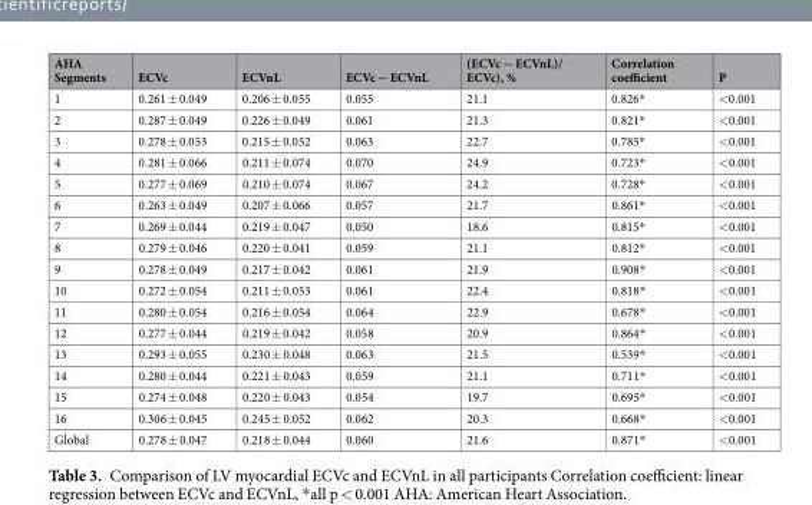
<table><thead><tr><td>AHA Segments</td><td>ECVc</td><td>ECVnL</td><td>ECVc − ECVnL</td><td>(ECVc − ECVnL)/ ECVc), %</td><td>Correlation coefficient</td><td>P</td></tr></thead><tbody><tr><td>1</td><td>0.261 ± 0.049</td><td>0.206 ± 0.055</td><td>0.055</td><td>21.1</td><td>0.826*</td><td>&lt;0.001</td></tr><tr><td>2</td><td>0.287 ± 0.049</td><td>0.226 ± 0.049</td><td>0.061</td><td>21.3</td><td>0.821*</td><td>&lt;0.001</td></tr><tr><td>3</td><td>0.278 ± 0.053</td><td>0.215 ± 0.052</td><td>0.063</td><td>22.7</td><td>0.785*</td><td>&lt;0.001</td></tr><tr><td>4</td><td>0.281 ± 0.066</td><td>0.211 ± 0.074</td><td>0.070</td><td>24.9</td><td>0.723*</td><td>&lt;0.001</td></tr><tr><td>5</td><td>0.277 ± 0.069</td><td>0.210 ± 0.074</td><td>0.067</td><td>24.2</td><td>0.728*</td><td>&lt;0.001</td></tr><tr><td>6</td><td>0.263 ± 0.049</td><td>0.207 ± 0.066</td><td>0.057</td><td>21.7</td><td>0.861*</td><td>&lt;0.001</td></tr><tr><td>7</td><td>0.269 ± 0.044</td><td>0.219 ± 0.047</td><td>0.050</td><td>18.6</td><td>0.815*</td><td>&lt;0.001</td></tr><tr><td>8</td><td>0.279 ± 0.046</td><td>0.220 ± 0.041</td><td>0.059</td><td>21.1</td><td>0.812*</td><td>&lt;0.001</td></tr><tr><td>9</td><td>0.278 ± 0.049</td><td>0.217 ± 0.042</td><td>0.061</td><td>21.9</td><td>0.908*</td><td>&lt;0.001</td></tr><tr><td>10</td><td>0.272 ± 0.054</td><td>0.211 ± 0.053</td><td>0.061</td><td>22.4</td><td>0.818*</td><td>&lt;0.001</td></tr><tr><td>11</td><td>0.280 ± 0.054</td><td>0.216 ± 0.054</td><td>0.064</td><td>22.9</td><td>0.678*</td><td>&lt;0.001</td></tr><tr><td>12</td><td>0.277 ± 0.044</td><td>0.219 ± 0.042</td><td>0.058</td><td>20.9</td><td>0.864*</td><td>&lt;0.001</td></tr><tr><td>13</td><td>0.293 ± 0.055</td><td>0.230 ± 0.048</td><td>0.063</td><td>21.5</td><td>0.539*</td><td>&lt;0.001</td></tr><tr><td>14</td><td>0.280 ± 0.044</td><td>0.221 ± 0.043</td><td>0.059</td><td>21.1</td><td>0.711*</td><td>&lt;0.001</td></tr><tr><td>15</td><td>0.274 ± 0.048</td><td>0.220 ± 0.043</td><td>0.054</td><td>19.7</td><td>0.695*</td><td>&lt;0.001</td></tr><tr><td>16</td><td>0.306 ± 0.045</td><td>0.245 ± 0.052</td><td>0.062</td><td>20.3</td><td>0.668*</td><td>&lt;0.001</td></tr><tr><td>Global</td><td>0.278 ± 0.047</td><td>0.218 ± 0.044</td><td>0.060</td><td>21.6</td><td>0.871*</td><td>&lt;0.001</td></tr></tbody></table>